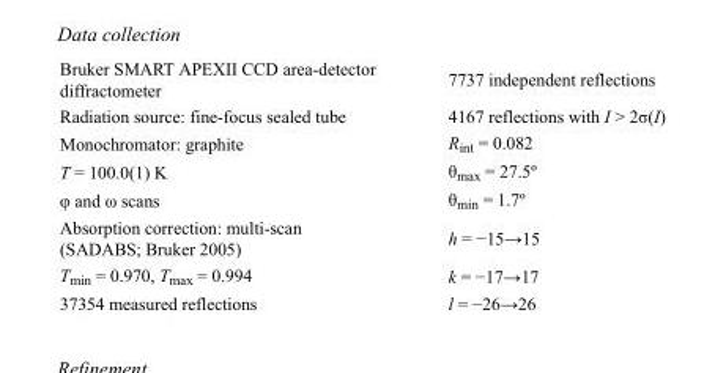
<table><tbody><tr><td>Bruker SMART APEXII CCD area-detector diffractometer</td><td>7737 independent reflections</td></tr><tr><td>Radiation source: fine-focus sealed tube</td><td>4167 reflections with I &gt; 2σ(I)</td></tr><tr><td>Monochromator: graphite</td><td>R<sub>int</sub> = 0.082</td></tr><tr><td>T = 100.0(1) K</td><td>θ<sub>max</sub> = 27.5º</td></tr><tr><td>φ and ω scans</td><td>θ<sub>min</sub> = 1.7º</td></tr><tr><td>Absorption correction: multi-scan (SADABS; Bruker 2005)</td><td>h = −15→15</td></tr><tr><td>T<sub>min</sub> = 0.970, T<sub>max</sub> = 0.994</td><td>k = −17→17</td></tr><tr><td>37354 measured reflections</td><td>l = −26→26</td></tr></tbody></table>